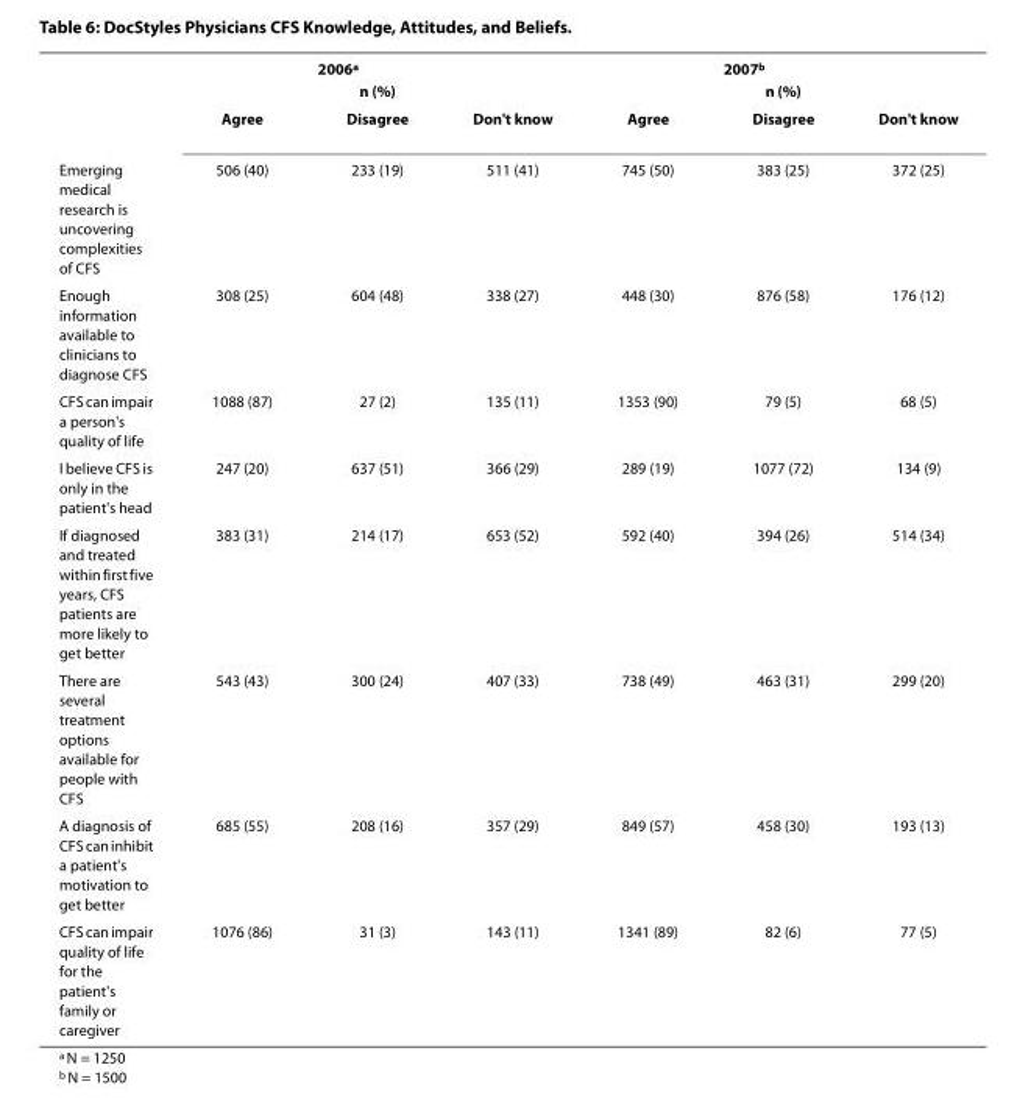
<table><thead><tr><td></td><td></td><td>2006<sup>a</sup> n (%)</td><td></td><td></td><td>2007<sup>b</sup> n (%)</td><td></td></tr></thead><tbody><tr><td></td><td>Agree</td><td>Disagree</td><td>Don&#x27;t know</td><td>Agree</td><td>Disagree</td><td>Don&#x27;t know</td></tr><tr><td>Emerging medical research is uncovering complexities of CFS</td><td>506 (40)</td><td>233 (19)</td><td>511 (41)</td><td>745 (50)</td><td>383 (25)</td><td>372 (25)</td></tr><tr><td>Enough information available to clinicians to diagnose CFS</td><td>308 (25)</td><td>604 (48)</td><td>338 (27)</td><td>448 (30)</td><td>876 (58)</td><td>176 (12)</td></tr><tr><td>CFS can impair a person&#x27;s quality of life</td><td>1088 (87)</td><td>27 (2)</td><td>135 (11)</td><td>1353 (90)</td><td>79 (5)</td><td>68 (5)</td></tr><tr><td>I believe CFS is only in the patient&#x27;s head</td><td>247 (20)</td><td>637 (51)</td><td>366 (29)</td><td>289 (19)</td><td>1077 (72)</td><td>134 (9)</td></tr><tr><td>If diagnosed and treated within first five years, CFS patients are more likely to get better</td><td>383 (31)</td><td>214 (17)</td><td>653 (52)</td><td>592 (40)</td><td>394 (26)</td><td>514 (34)</td></tr><tr><td>There are several treatment options available for people with CFS</td><td>543 (43)</td><td>300 (24)</td><td>407 (33)</td><td>738 (49)</td><td>463 (31)</td><td>299 (20)</td></tr><tr><td>A diagnosis of CFS can inhibit a patient&#x27;s motivation to get better</td><td>685 (55)</td><td>208 (16)</td><td>357 (29)</td><td>849 (57)</td><td>458 (30)</td><td>193 (13)</td></tr><tr><td>CFS can impair quality of life for the patient&#x27;s family or caregiver</td><td>1076 (86)</td><td>31 (3)</td><td>143 (11)</td><td>1341 (89)</td><td>82 (6)</td><td>77 (5)</td></tr></tbody></table>